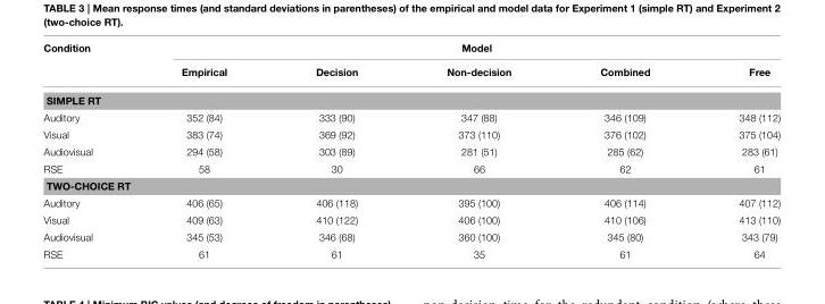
<table><thead><tr><td rowspan="2">Condition</td><td colspan="5">Model</td></tr><tr><td>Empirical</td><td>Decision</td><td>Non-decision</td><td>Combined</td><td>Free</td></tr></thead><tbody><tr><td colspan="6">SIMPLE RT</td></tr><tr><td>Auditory</td><td>352 (84)</td><td>333 (90)</td><td>347 (88)</td><td>346 (109)</td><td>348 (112)</td></tr><tr><td>Visual</td><td>383 (74)</td><td>369 (92)</td><td>373 (110)</td><td>376 (102)</td><td>375 (104)</td></tr><tr><td>Audiovisual</td><td>294 (58)</td><td>303 (89)</td><td>281 (51)</td><td>285 (62)</td><td>283 (61)</td></tr><tr><td>RSE</td><td>58</td><td>30</td><td>66</td><td>62</td><td>61</td></tr><tr><td colspan="6">TWO-CHOICE RT</td></tr><tr><td>Auditory</td><td>406 (65)</td><td>406 (118)</td><td>395 (100)</td><td>406 (114)</td><td>407 (112)</td></tr><tr><td>Visual</td><td>409 (63)</td><td>410 (122)</td><td>406 (100)</td><td>410 (106)</td><td>413 (110)</td></tr><tr><td>Audiovisual</td><td>345 (53)</td><td>346 (68)</td><td>360 (100)</td><td>345 (80)</td><td>343 (79)</td></tr><tr><td>RSE</td><td>61</td><td>61</td><td>35</td><td>61</td><td>64</td></tr></tbody></table>